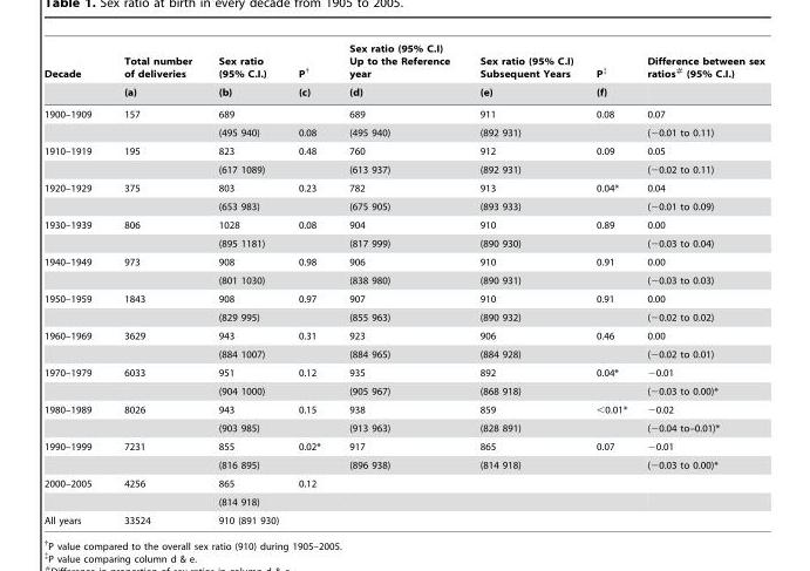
<table><thead><tr><td rowspan="2">Decade</td><td rowspan="2">Total number of deliveries (a)</td><td rowspan="2">Sex ratio (95% C.I.) (b)</td><td rowspan="2">P† (c)</td><td rowspan="2">Sex ratio (95% C.I) Up to the Reference year (d)</td><td rowspan="2">Sex ratio (95% C.I) Subsequent Years (e)</td><td rowspan="2">P‡ (f)</td><td rowspan="2">Difference between sex ratios# (95% C.I.)</td></tr><tr></tr></thead><tbody><tr><td rowspan="2">1900–1909</td><td>157</td><td>689</td><td></td><td>689</td><td>911</td><td>0.08</td><td>0.07</td></tr><tr><td></td><td>(495 940)</td><td>0.08</td><td>(495 940)</td><td>(892 931)</td><td></td><td>(−0.01 to 0.11)</td></tr><tr><td rowspan="2">1910–1919</td><td>195</td><td>823</td><td>0.48</td><td>760</td><td>912</td><td>0.09</td><td>0.05</td></tr><tr><td></td><td>(617 1089)</td><td></td><td>(613 937)</td><td>(892 931)</td><td></td><td>(−0.02 to 0.11)</td></tr><tr><td rowspan="2">1920–1929</td><td>375</td><td>803</td><td>0.23</td><td>782</td><td>913</td><td>0.04*</td><td>0.04</td></tr><tr><td></td><td>(653 983)</td><td></td><td>(675 905)</td><td>(893 933)</td><td></td><td>(−0.01 to 0.09)</td></tr><tr><td rowspan="2">1930–1939</td><td>806</td><td>1028</td><td>0.08</td><td>904</td><td>910</td><td>0.89</td><td>0.00</td></tr><tr><td></td><td>(895 1181)</td><td></td><td>(817 999)</td><td>(890 930)</td><td></td><td>(−0.03 to 0.04)</td></tr><tr><td rowspan="2">1940–1949</td><td>973</td><td>908</td><td>0.98</td><td>906</td><td>910</td><td>0.91</td><td>0.00</td></tr><tr><td></td><td>(801 1030)</td><td></td><td>(838 980)</td><td>(890 931)</td><td></td><td>(−0.03 to 0.03)</td></tr><tr><td rowspan="2">1950–1959</td><td>1843</td><td>908</td><td>0.97</td><td>907</td><td>910</td><td>0.91</td><td>0.00</td></tr><tr><td></td><td>(829 995)</td><td></td><td>(855 963)</td><td>(890 932)</td><td></td><td>(−0.02 to 0.02)</td></tr><tr><td rowspan="2">1960–1969</td><td>3629</td><td>943</td><td>0.31</td><td>923</td><td>906</td><td>0.46</td><td>0.00</td></tr><tr><td></td><td>(884 1007)</td><td></td><td>(884 965)</td><td>(884 928)</td><td></td><td>(−0.02 to 0.01)</td></tr><tr><td rowspan="2">1970–1979</td><td>6033</td><td>951</td><td>0.12</td><td>935</td><td>892</td><td>0.04*</td><td>−0.01</td></tr><tr><td></td><td>(904 1000)</td><td></td><td>(905 967)</td><td>(868 918)</td><td></td><td>(−0.03 to 0.00)*</td></tr><tr><td rowspan="2">1980–1989</td><td>8026</td><td>943</td><td>0.15</td><td>938</td><td>859</td><td>&lt;0.01*</td><td>−0.02</td></tr><tr><td></td><td>(903 985)</td><td></td><td>(913 963)</td><td>(828 891)</td><td></td><td>(−0.04 to–0.01)*</td></tr><tr><td rowspan="2">1990–1999</td><td>7231</td><td>855</td><td>0.02*</td><td>917</td><td>865</td><td>0.07</td><td>−0.01</td></tr><tr><td></td><td>(816 895)</td><td></td><td>(896 938)</td><td>(814 918)</td><td></td><td>(−0.03 to 0.00)*</td></tr><tr><td rowspan="2">2000–2005</td><td>4256</td><td>865</td><td>0.12</td><td></td><td></td><td></td><td></td></tr><tr><td></td><td>(814 918)</td><td></td><td></td><td></td><td></td><td></td></tr><tr><td>All years</td><td>33524</td><td>910 (891 930)</td><td></td><td></td><td></td><td></td><td></td></tr></tbody></table>